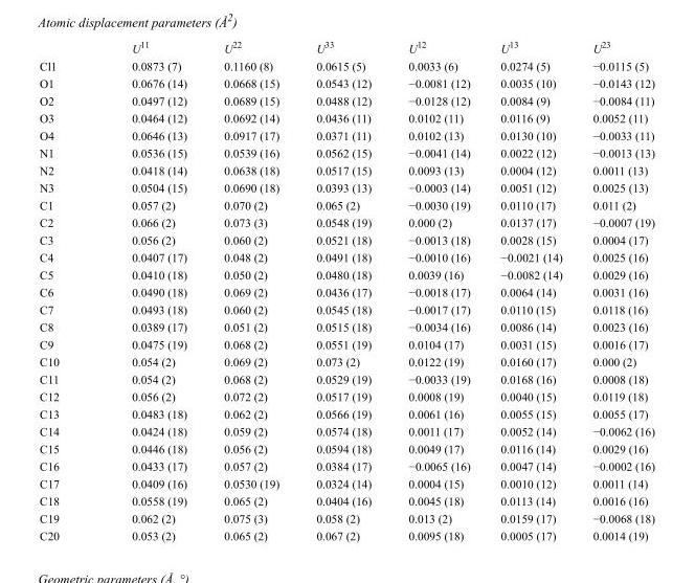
<table><thead><tr><td></td><td>U<sup>11</sup></td><td>U<sup>22</sup></td><td>U<sup>33</sup></td><td>U<sup>12</sup></td><td>U<sup>13</sup></td><td>U<sup>23</sup></td></tr></thead><tbody><tr><td>Cl1</td><td>0.0873 (7)</td><td>0.1160 (8)</td><td>0.0615 (5)</td><td>0.0033 (6)</td><td>0.0274 (5)</td><td>−0.0115 (5)</td></tr><tr><td>O1</td><td>0.0676 (14)</td><td>0.0668 (15)</td><td>0.0543 (12)</td><td>−0.0081 (12)</td><td>0.0035 (10)</td><td>−0.0143 (12)</td></tr><tr><td>O2</td><td>0.0497 (12)</td><td>0.0689 (15)</td><td>0.0488 (12)</td><td>−0.0128 (12)</td><td>0.0084 (9)</td><td>−0.0084 (11)</td></tr><tr><td>O3</td><td>0.0464 (12)</td><td>0.0692 (14)</td><td>0.0436 (11)</td><td>0.0102 (11)</td><td>0.0116 (9)</td><td>0.0052 (11)</td></tr><tr><td>O4</td><td>0.0646 (13)</td><td>0.0917 (17)</td><td>0.0371 (11)</td><td>0.0102 (13)</td><td>0.0130 (10)</td><td>−0.0033 (11)</td></tr><tr><td>N1</td><td>0.0536 (15)</td><td>0.0539 (16)</td><td>0.0562 (15)</td><td>−0.0041 (14)</td><td>0.0022 (12)</td><td>−0.0013 (13)</td></tr><tr><td>N2</td><td>0.0418 (14)</td><td>0.0638 (18)</td><td>0.0517 (15)</td><td>0.0093 (13)</td><td>0.0004 (12)</td><td>0.0011 (13)</td></tr><tr><td>N3</td><td>0.0504 (15)</td><td>0.0690 (18)</td><td>0.0393 (13)</td><td>−0.0003 (14)</td><td>0.0051 (12)</td><td>0.0025 (13)</td></tr><tr><td>C1</td><td>0.057 (2)</td><td>0.070 (2)</td><td>0.065 (2)</td><td>−0.0030 (19)</td><td>0.0110 (17)</td><td>0.011 (2)</td></tr><tr><td>C2</td><td>0.066 (2)</td><td>0.073 (3)</td><td>0.0548 (19)</td><td>0.000 (2)</td><td>0.0137 (17)</td><td>−0.0007 (19)</td></tr><tr><td>C3</td><td>0.056 (2)</td><td>0.060 (2)</td><td>0.0521 (18)</td><td>−0.0013 (18)</td><td>0.0028 (15)</td><td>0.0004 (17)</td></tr><tr><td>C4</td><td>0.0407 (17)</td><td>0.048 (2)</td><td>0.0491 (18)</td><td>−0.0010 (16)</td><td>−0.0021 (14)</td><td>0.0025 (16)</td></tr><tr><td>C5</td><td>0.0410 (18)</td><td>0.050 (2)</td><td>0.0480 (18)</td><td>0.0039 (16)</td><td>−0.0082 (14)</td><td>0.0029 (16)</td></tr><tr><td>C6</td><td>0.0490 (18)</td><td>0.069 (2)</td><td>0.0436 (17)</td><td>−0.0018 (17)</td><td>0.0064 (14)</td><td>0.0031 (16)</td></tr><tr><td>C7</td><td>0.0493 (18)</td><td>0.060 (2)</td><td>0.0545 (18)</td><td>−0.0017 (17)</td><td>0.0110 (15)</td><td>0.0118 (16)</td></tr><tr><td>C8</td><td>0.0389 (17)</td><td>0.051 (2)</td><td>0.0515 (18)</td><td>−0.0034 (16)</td><td>0.0086 (14)</td><td>0.0023 (16)</td></tr><tr><td>C9</td><td>0.0475 (19)</td><td>0.068 (2)</td><td>0.0551 (19)</td><td>0.0104 (17)</td><td>0.0031 (15)</td><td>0.0016 (17)</td></tr><tr><td>C10</td><td>0.054 (2)</td><td>0.069 (2)</td><td>0.073 (2)</td><td>0.0122 (19)</td><td>0.0160 (17)</td><td>0.000 (2)</td></tr><tr><td>C11</td><td>0.054 (2)</td><td>0.068 (2)</td><td>0.0529 (19)</td><td>−0.0033 (19)</td><td>0.0168 (16)</td><td>0.0008 (18)</td></tr><tr><td>C12</td><td>0.056 (2)</td><td>0.072 (2)</td><td>0.0517 (19)</td><td>0.0008 (19)</td><td>0.0040 (15)</td><td>0.0119 (18)</td></tr><tr><td>C13</td><td>0.0483 (18)</td><td>0.062 (2)</td><td>0.0566 (19)</td><td>0.0061 (16)</td><td>0.0055 (15)</td><td>0.0055 (17)</td></tr><tr><td>C14</td><td>0.0424 (18)</td><td>0.059 (2)</td><td>0.0574 (18)</td><td>0.0011 (17)</td><td>0.0052 (14)</td><td>−0.0062 (16)</td></tr><tr><td>C15</td><td>0.0446 (18)</td><td>0.056 (2)</td><td>0.0594 (18)</td><td>0.0049 (17)</td><td>0.0116 (14)</td><td>0.0029 (16)</td></tr><tr><td>C16</td><td>0.0433 (17)</td><td>0.057 (2)</td><td>0.0384 (17)</td><td>−0.0065 (16)</td><td>0.0047 (14)</td><td>−0.0002 (16)</td></tr><tr><td>C17</td><td>0.0409 (16)</td><td>0.0530 (19)</td><td>0.0324 (14)</td><td>0.0004 (15)</td><td>0.0010 (12)</td><td>0.0011 (14)</td></tr><tr><td>C18</td><td>0.0558 (19)</td><td>0.065 (2)</td><td>0.0404 (16)</td><td>0.0045 (18)</td><td>0.0113 (14)</td><td>0.0016 (16)</td></tr><tr><td>C19</td><td>0.062 (2)</td><td>0.075 (3)</td><td>0.058 (2)</td><td>0.013 (2)</td><td>0.0159 (17)</td><td>−0.0068 (18)</td></tr><tr><td>C20</td><td>0.053 (2)</td><td>0.065 (2)</td><td>0.067 (2)</td><td>0.0095 (18)</td><td>0.0005 (17)</td><td>0.0014 (19)</td></tr></tbody></table>